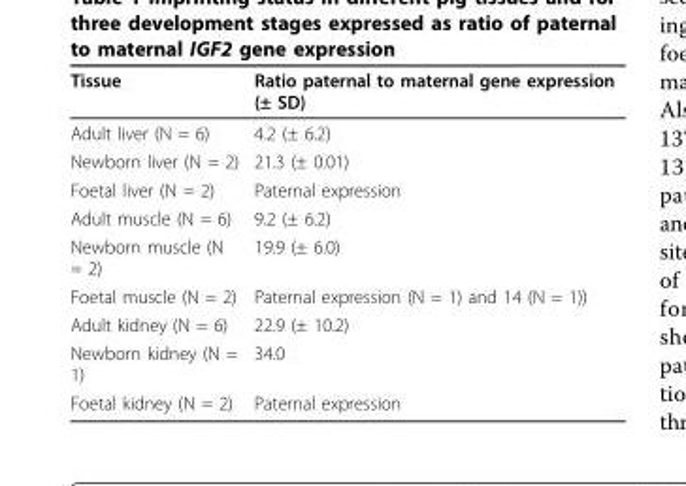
<table><thead><tr><td>Tissue</td><td>Ratio paternal to maternal gene expression (± SD)</td></tr></thead><tbody><tr><td>Adult liver (N = 6)</td><td>4.2 (± 6.2)</td></tr><tr><td>Newborn liver (N = 2)</td><td>21.3 (± 0.01)</td></tr><tr><td>Foetal liver (N = 2)</td><td>Paternal expression</td></tr><tr><td>Adult muscle (N = 6)</td><td>9.2 (± 6.2)</td></tr><tr><td>Newborn muscle (N = 2)</td><td>19.9 (± 6.0)</td></tr><tr><td>Foetal muscle (N = 2)</td><td>Paternal expression (N = 1) and 14 (N = 1))</td></tr><tr><td>Adult kidney (N = 6)</td><td>22.9 (± 10.2)</td></tr><tr><td>Newborn kidney (N = 1)</td><td>34.0</td></tr><tr><td>Foetal kidney (N = 2)</td><td>Paternal expression</td></tr></tbody></table>